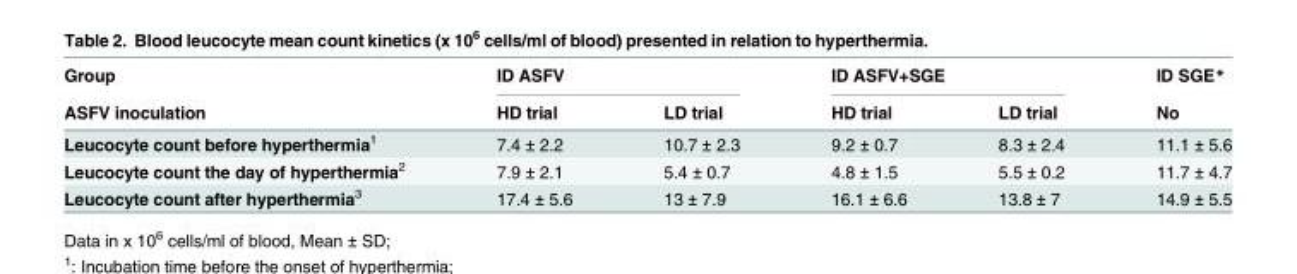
<table><thead><tr><td rowspan="2">Group ASFV inoculation</td><td colspan="2">ID ASFV</td><td colspan="2">ID ASFV+SGE</td><td rowspan="2">ID SGE* No</td></tr><tr><td>HD trial</td><td>LD trial</td><td>HD trial</td><td>LD trial</td></tr></thead><tbody><tr><td>Leucocyte count before hyperthermia<sup>1</sup></td><td>7.4 ± 2.2</td><td>10.7 ± 2.3</td><td>9.2 ± 0.7</td><td>8.3 ± 2.4</td><td>11.1 ± 5.6</td></tr><tr><td>Leucocyte count the day of hyperthermia<sup>2</sup></td><td>7.9 ± 2.1</td><td>5.4 ± 0.7</td><td>4.8 ± 1.5</td><td>5.5 ± 0.2</td><td>11.7 ± 4.7</td></tr><tr><td>Leucocyte count after hyperthermia<sup>3</sup></td><td>17.4 ± 5.6</td><td>13 ± 7.9</td><td>16.1 ± 6.6</td><td>13.8 ± 7</td><td>14.9 ± 5.5</td></tr></tbody></table>